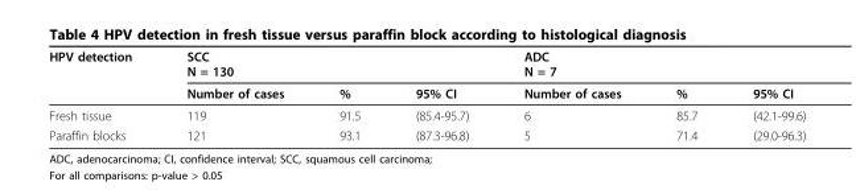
<table><thead><tr><td rowspan="2">HPV detection</td><td colspan="3">SCC N = 130</td><td colspan="3">ADC N = 7</td></tr><tr><td>Number of cases</td><td>%</td><td>95% CI</td><td>Number of cases</td><td>%</td><td>95% CI</td></tr></thead><tbody><tr><td>Fresh tissue</td><td>119</td><td>91.5</td><td>(85.4-95.7)</td><td>6</td><td>85.7</td><td>(42.1-99.6)</td></tr><tr><td>Paraffin blocks</td><td>121</td><td>93.1</td><td>(87.3-96.8)</td><td>5</td><td>71.4</td><td>(29.0-96.3)</td></tr></tbody></table>